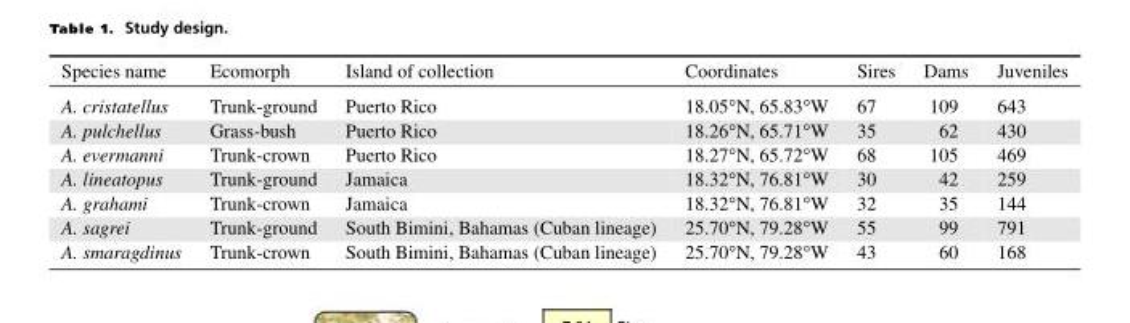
<table><thead><tr><td>Species name</td><td>Ecomorph</td><td>Island of collection</td><td>Coordinates</td><td>Sires</td><td>Dams</td><td>Juveniles</td></tr></thead><tbody><tr><td>A. cristatellus</td><td>Trunk-ground</td><td>Puerto Rico</td><td>18.05°N, 65.83°W</td><td>67</td><td>109</td><td>643</td></tr><tr><td>A. pulchellus</td><td>Grass-bush</td><td>Puerto Rico</td><td>18.26°N, 65.71°W</td><td>35</td><td>62</td><td>430</td></tr><tr><td>A. evermanni</td><td>Trunk-crown</td><td>Puerto Rico</td><td>18.27°N, 65.72°W</td><td>68</td><td>105</td><td>469</td></tr><tr><td>A. lineatopus</td><td>Trunk-ground</td><td>Jamaica</td><td>18.32°N, 76.81°W</td><td>30</td><td>42</td><td>259</td></tr><tr><td>A. grahami</td><td>Trunk-crown</td><td>Jamaica</td><td>18.32°N, 76.81°W</td><td>32</td><td>35</td><td>144</td></tr><tr><td>A. sagrei</td><td>Trunk-ground</td><td>South Bimini, Bahamas (Cuban lineage)</td><td>25.70°N, 79.28°W</td><td>55</td><td>99</td><td>791</td></tr><tr><td>A. smaragdinus</td><td>Trunk-crown</td><td>South Bimini, Bahamas (Cuban lineage)</td><td>25.70°N, 79.28°W</td><td>43</td><td>60</td><td>168</td></tr></tbody></table>